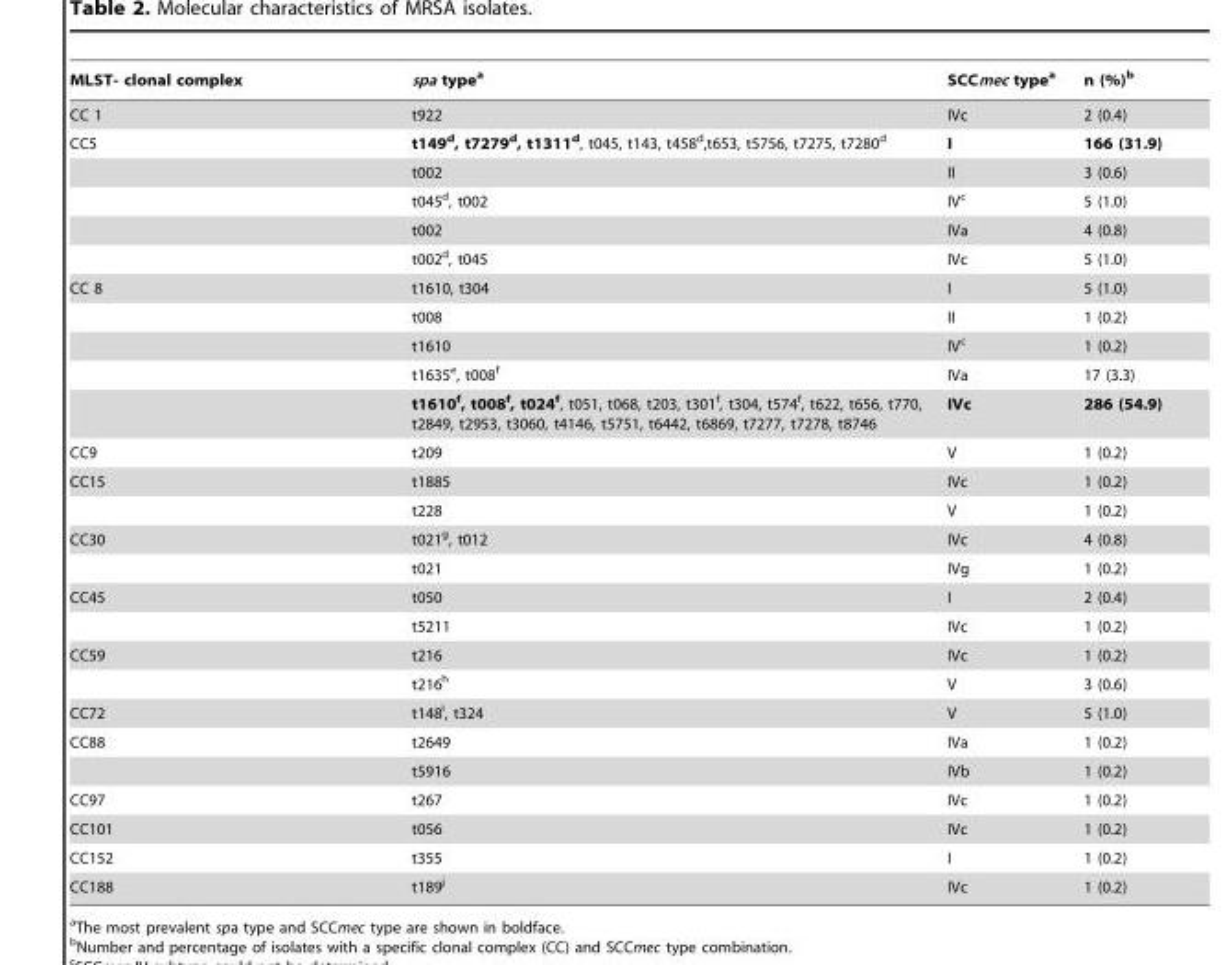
<table><thead><tr><td>MLST- clonal complex</td><td>spa type<sup>a</sup></td><td>SCCmec type<sup>a</sup></td><td>n (%)<sup>b</sup></td></tr></thead><tbody><tr><td>CC 1</td><td>t922</td><td>IVc</td><td>2 (0.4)</td></tr><tr><td rowspan="5">CC5</td><td>t149<sup>d</sup>, t7279<sup>d</sup>, t1311<sup>d</sup>, t045, t143, t458<sup>d</sup>,t653, t5756, t7275, t7280<sup>d</sup></td><td>I</td><td>166 (31.9)</td></tr><tr><td>t002</td><td>II</td><td>3 (0.6)</td></tr><tr><td>t045<sup>d</sup>, t002</td><td>IV<sup>c</sup></td><td>5 (1.0)</td></tr><tr><td>t002</td><td>IVa</td><td>4 (0.8)</td></tr><tr><td>t002<sup>d</sup>, t045</td><td>IVc</td><td>5 (1.0)</td></tr><tr><td rowspan="5">CC 8</td><td>t1610, t304</td><td>I</td><td>5 (1.0)</td></tr><tr><td>t008</td><td>II</td><td>1 (0.2)</td></tr><tr><td>t1610</td><td>IV<sup>c</sup></td><td>1 (0.2)</td></tr><tr><td>t1635<sup>e</sup>, t008<sup>f</sup></td><td>IVa</td><td>17 (3.3)</td></tr><tr><td>t1610<sup>f</sup>, t008<sup>f</sup>, t024<sup>f</sup>, t051, t068, t203, t301<sup>f</sup>, t304, t574<sup>f</sup>, t622, t656, t770, t2849, t2953, t3060, t4146, t5751, t6442, t6869, t7277, t7278, t8746</td><td>IVc</td><td>286 (54.9)</td></tr><tr><td>CC9</td><td>t209</td><td>V</td><td>1 (0.2)</td></tr><tr><td rowspan="2">CC15</td><td>t1885</td><td>IVc</td><td>1 (0.2)</td></tr><tr><td>t228</td><td>V</td><td>1 (0.2)</td></tr><tr><td rowspan="2">CC30</td><td>t021<sup>g</sup>, t012</td><td>IVc</td><td>4 (0.8)</td></tr><tr><td>t021</td><td>IVg</td><td>1 (0.2)</td></tr><tr><td rowspan="2">CC45</td><td>t050</td><td>I</td><td>2 (0.4)</td></tr><tr><td>t5211</td><td>IVc</td><td>1 (0.2)</td></tr><tr><td rowspan="2">CC59</td><td>t216</td><td>IVc</td><td>1 (0.2)</td></tr><tr><td>t216<sup>h</sup></td><td>V</td><td>3 (0.6)</td></tr><tr><td>CC72</td><td>t148<sup>i</sup>, t324</td><td>V</td><td>5 (1.0)</td></tr><tr><td rowspan="2">CC88</td><td>t2649</td><td>IVa</td><td>1 (0.2)</td></tr><tr><td>t5916</td><td>IVb</td><td>1 (0.2)</td></tr><tr><td>CC97</td><td>t267</td><td>IVc</td><td>1 (0.2)</td></tr><tr><td>CC101</td><td>t056</td><td>IVc</td><td>1 (0.2)</td></tr><tr><td>CC152</td><td>t355</td><td>I</td><td>1 (0.2)</td></tr><tr><td>CC188</td><td>t189<sup>j</sup></td><td>IVc</td><td>1 (0.2)</td></tr></tbody></table>